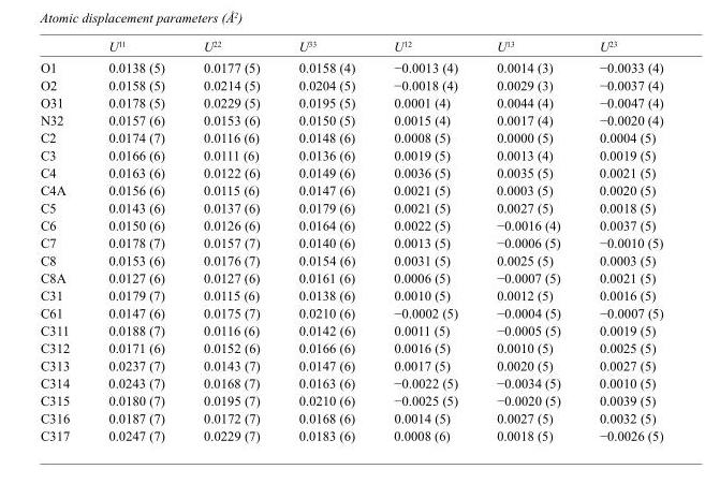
<table><thead><tr><td></td><td>U<sup>11</sup></td><td>U<sup>22</sup></td><td>U<sup>33</sup></td><td>U<sup>12</sup></td><td>U<sup>13</sup></td><td>U<sup>23</sup></td></tr></thead><tbody><tr><td>O1</td><td>0.0138 (5)</td><td>0.0177 (5)</td><td>0.0158 (4)</td><td>−0.0013 (4)</td><td>0.0014 (3)</td><td>−0.0033 (4)</td></tr><tr><td>O2</td><td>0.0158 (5)</td><td>0.0214 (5)</td><td>0.0204 (5)</td><td>−0.0018 (4)</td><td>0.0029 (3)</td><td>−0.0037 (4)</td></tr><tr><td>O31</td><td>0.0178 (5)</td><td>0.0229 (5)</td><td>0.0195 (5)</td><td>0.0001 (4)</td><td>0.0044 (4)</td><td>−0.0047 (4)</td></tr><tr><td>N32</td><td>0.0157 (6)</td><td>0.0153 (6)</td><td>0.0150 (5)</td><td>0.0015 (4)</td><td>0.0017 (4)</td><td>−0.0020 (4)</td></tr><tr><td>C2</td><td>0.0174 (7)</td><td>0.0116 (6)</td><td>0.0148 (6)</td><td>0.0008 (5)</td><td>0.0000 (5)</td><td>0.0004 (5)</td></tr><tr><td>C3</td><td>0.0166 (6)</td><td>0.0111 (6)</td><td>0.0136 (6)</td><td>0.0019 (5)</td><td>0.0013 (4)</td><td>0.0019 (5)</td></tr><tr><td>C4</td><td>0.0163 (6)</td><td>0.0122 (6)</td><td>0.0149 (6)</td><td>0.0036 (5)</td><td>0.0035 (5)</td><td>0.0021 (5)</td></tr><tr><td>C4A</td><td>0.0156 (6)</td><td>0.0115 (6)</td><td>0.0147 (6)</td><td>0.0021 (5)</td><td>0.0003 (5)</td><td>0.0020 (5)</td></tr><tr><td>C5</td><td>0.0143 (6)</td><td>0.0137 (6)</td><td>0.0179 (6)</td><td>0.0021 (5)</td><td>0.0027 (5)</td><td>0.0018 (5)</td></tr><tr><td>C6</td><td>0.0150 (6)</td><td>0.0126 (6)</td><td>0.0164 (6)</td><td>0.0022 (5)</td><td>−0.0016 (4)</td><td>0.0037 (5)</td></tr><tr><td>C7</td><td>0.0178 (7)</td><td>0.0157 (7)</td><td>0.0140 (6)</td><td>0.0013 (5)</td><td>−0.0006 (5)</td><td>−0.0010 (5)</td></tr><tr><td>C8</td><td>0.0153 (6)</td><td>0.0176 (7)</td><td>0.0154 (6)</td><td>0.0031 (5)</td><td>0.0025 (5)</td><td>0.0003 (5)</td></tr><tr><td>C8A</td><td>0.0127 (6)</td><td>0.0127 (6)</td><td>0.0161 (6)</td><td>0.0006 (5)</td><td>−0.0007 (5)</td><td>0.0021 (5)</td></tr><tr><td>C31</td><td>0.0179 (7)</td><td>0.0115 (6)</td><td>0.0138 (6)</td><td>0.0010 (5)</td><td>0.0012 (5)</td><td>0.0016 (5)</td></tr><tr><td>C61</td><td>0.0147 (6)</td><td>0.0175 (7)</td><td>0.0210 (6)</td><td>−0.0002 (5)</td><td>−0.0004 (5)</td><td>−0.0007 (5)</td></tr><tr><td>C311</td><td>0.0188 (7)</td><td>0.0116 (6)</td><td>0.0142 (6)</td><td>0.0011 (5)</td><td>−0.0005 (5)</td><td>0.0019 (5)</td></tr><tr><td>C312</td><td>0.0171 (6)</td><td>0.0152 (6)</td><td>0.0166 (6)</td><td>0.0016 (5)</td><td>0.0010 (5)</td><td>0.0025 (5)</td></tr><tr><td>C313</td><td>0.0237 (7)</td><td>0.0143 (7)</td><td>0.0147 (6)</td><td>0.0017 (5)</td><td>0.0020 (5)</td><td>0.0027 (5)</td></tr><tr><td>C314</td><td>0.0243 (7)</td><td>0.0168 (7)</td><td>0.0163 (6)</td><td>−0.0022 (5)</td><td>−0.0034 (5)</td><td>0.0010 (5)</td></tr><tr><td>C315</td><td>0.0180 (7)</td><td>0.0195 (7)</td><td>0.0210 (6)</td><td>−0.0025 (5)</td><td>−0.0020 (5)</td><td>0.0039 (5)</td></tr><tr><td>C316</td><td>0.0187 (7)</td><td>0.0172 (7)</td><td>0.0168 (6)</td><td>0.0014 (5)</td><td>0.0027 (5)</td><td>0.0032 (5)</td></tr><tr><td>C317</td><td>0.0247 (7)</td><td>0.0229 (7)</td><td>0.0183 (6)</td><td>0.0008 (6)</td><td>0.0018 (5)</td><td>−0.0026 (5)</td></tr></tbody></table>